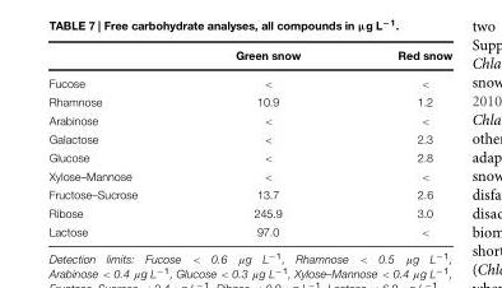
<table><thead><tr><td></td><td>Green snow</td><td>Red snow</td></tr></thead><tbody><tr><td>Fucose</td><td>&lt;</td><td>&lt;</td></tr><tr><td>Rhamnose</td><td>10.9</td><td>1.2</td></tr><tr><td>Arabinose</td><td>&lt;</td><td>&lt;</td></tr><tr><td>Galactose</td><td>&lt;</td><td>2.3</td></tr><tr><td>Glucose</td><td>&lt;</td><td>2.8</td></tr><tr><td>Xylose–Mannose</td><td>&lt;</td><td>&lt;</td></tr><tr><td>Fructose–Sucrose</td><td>13.7</td><td>2.6</td></tr><tr><td>Ribose</td><td>245.9</td><td>3.0</td></tr><tr><td>Lactose</td><td>97.0</td><td>&lt;</td></tr></tbody></table>